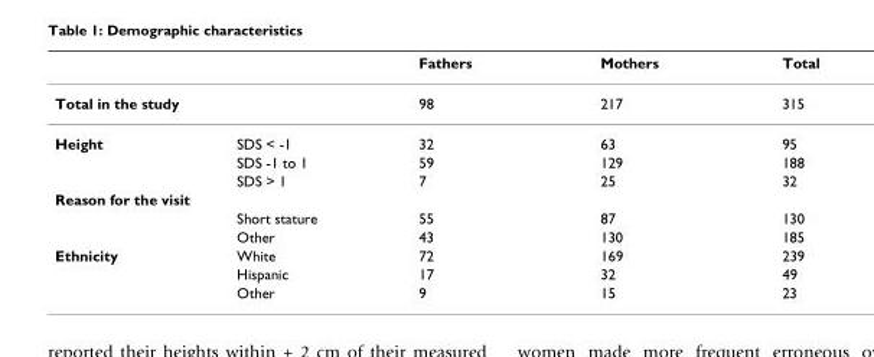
<table><thead><tr><td></td><td></td><td>Fathers</td><td>Mothers</td><td>Total</td></tr></thead><tbody><tr><td colspan="2">Total in the study</td><td>98</td><td>217</td><td>315</td></tr><tr><td rowspan="3">Height</td><td>SDS &lt; -1</td><td>32</td><td>63</td><td>95</td></tr><tr><td>SDS -1 to 1</td><td>59</td><td>129</td><td>188</td></tr><tr><td>SDS &gt; 1</td><td>7</td><td>25</td><td>32</td></tr><tr><td colspan="5">Reason for the visit</td></tr><tr><td></td><td>Short stature</td><td>55</td><td>87</td><td>130</td></tr><tr><td></td><td>Other</td><td>43</td><td>130</td><td>185</td></tr><tr><td rowspan="3">Ethnicity</td><td>White</td><td>72</td><td>169</td><td>239</td></tr><tr><td>Hispanic</td><td>17</td><td>32</td><td>49</td></tr><tr><td>Other</td><td>9</td><td>15</td><td>23</td></tr></tbody></table>